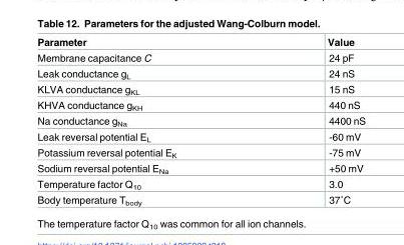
<table><thead><tr><td>Parameter</td><td>Value</td></tr></thead><tbody><tr><td>Membrane capacitance C</td><td>24 pF</td></tr><tr><td>Leak conductance g<sub>L</sub></td><td>24 nS</td></tr><tr><td>KLVA conductance g<sub>KL</sub></td><td>15 nS</td></tr><tr><td>KHVA conductance g<sub>KH</sub></td><td>440 nS</td></tr><tr><td>Na conductance g<sub>Na</sub></td><td>4400 nS</td></tr><tr><td>Leak reversal potential E<sub>L</sub></td><td>-60 mV</td></tr><tr><td>Potassium reversal potential E<sub>K</sub></td><td>-75 mV</td></tr><tr><td>Sodium reversal potential E<sub>Na</sub></td><td>+50 mV</td></tr><tr><td>Temperature factor Q<sub>10</sub></td><td>3.0</td></tr><tr><td>Body temperature T<sub>body</sub></td><td>37˚C</td></tr></tbody></table>